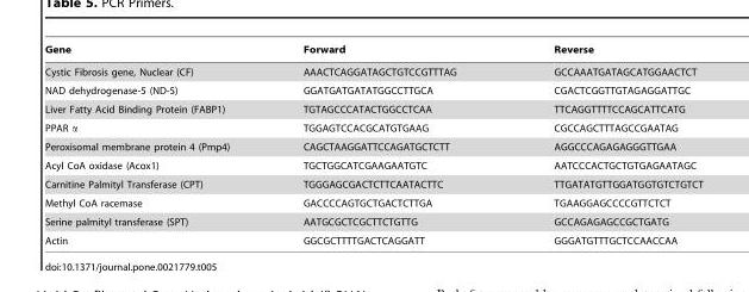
<table><thead><tr><td>Gene</td><td>Forward</td><td>Reverse</td></tr></thead><tbody><tr><td>Cystic Fibrosis gene, Nuclear (CF)</td><td>AAACTCAGGATAGCTGTCCGTTTAG</td><td>GCCAAATGATAGCATGGAACTCT</td></tr><tr><td>NAD dehydrogenase-5 (ND-5)</td><td>GGATGATGATATGGCCTTGCA</td><td>CGACTCGGTTGTAGAGGATTGC</td></tr><tr><td>Liver Fatty Acid Binding Protein (FABP1)</td><td>TGTAGCCCATACTGGCCTCAA</td><td>TTCAGGTTTTCCAGCATTCATG</td></tr><tr><td>PPAR α</td><td>TGGAGTCCACGCATGTGAAG</td><td>CGCCAGCTTTAGCCGAATAG</td></tr><tr><td>Peroxisomal membrane protein 4 (Pmp4)</td><td>CAGCTAAGGATTCCAGATGCTCTT</td><td>AGGCCCAGAGAGGGTTGAA</td></tr><tr><td>Acyl CoA oxidase (Acox1)</td><td>TGCTGGCATCGAAGAATGTC</td><td>AATCCCACTGCTGTGAGAATAGC</td></tr><tr><td>Carnitine Palmityl Transferase (CPT)</td><td>TGGGAGCGACTCTTCAATACTTC</td><td>TTGATATGTTGGATGGTGTCTGTCT</td></tr><tr><td>Methyl CoA racemase</td><td>GACCCCAGTGCTGACTCTTGA</td><td>TGAAGGAGCCCCGTTCTCT</td></tr><tr><td>Serine palmityl transferase (SPT)</td><td>AATGCGCTCGCTTCTGTTG</td><td>GCCAGAGAGCCGCTGATG</td></tr><tr><td>Actin</td><td>GGCGCTTTTGACTCAGGATT</td><td>GGGATGTTTGCTCCAACCAA</td></tr></tbody></table>